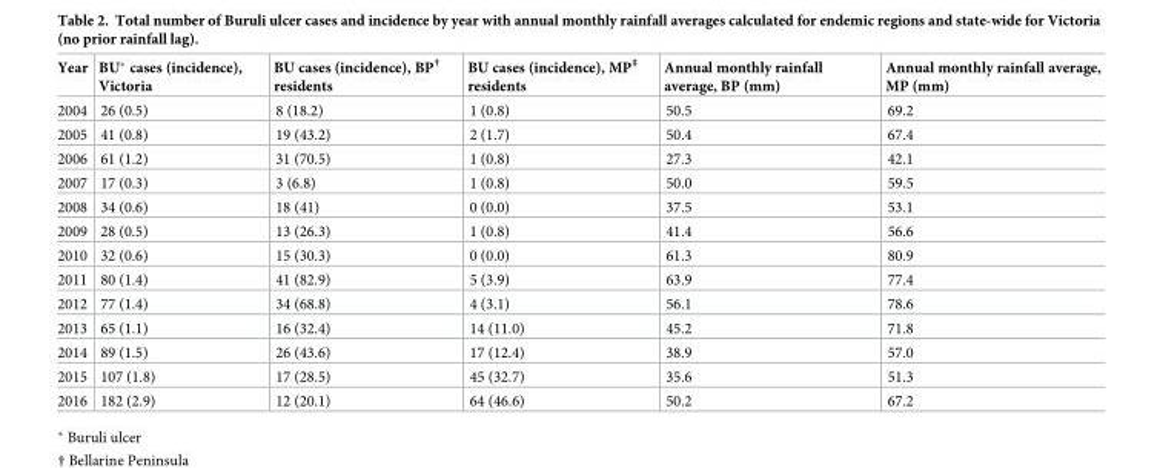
<table><thead><tr><td>Year</td><td>BU* cases (incidence), Victoria</td><td>BU cases (incidence), BP<sup>†</sup> residents</td><td>BU cases (incidence), MP<sup>‡</sup> residents</td><td>Annual monthly rainfall average, BP (mm)</td><td>Annual monthly rainfall average, MP (mm)</td></tr></thead><tbody><tr><td>2004</td><td>26 (0.5)</td><td>8 (18.2)</td><td>1 (0.8)</td><td>50.5</td><td>69.2</td></tr><tr><td>2005</td><td>41 (0.8)</td><td>19 (43.2)</td><td>2 (1.7)</td><td>50.4</td><td>67.4</td></tr><tr><td>2006</td><td>61 (1.2)</td><td>31 (70.5)</td><td>1 (0.8)</td><td>27.3</td><td>42.1</td></tr><tr><td>2007</td><td>17 (0.3)</td><td>3 (6.8)</td><td>1 (0.8)</td><td>50.0</td><td>59.5</td></tr><tr><td>2008</td><td>34 (0.6)</td><td>18 (41)</td><td>0 (0.0)</td><td>37.5</td><td>53.1</td></tr><tr><td>2009</td><td>28 (0.5)</td><td>13 (26.3)</td><td>1 (0.8)</td><td>41.4</td><td>56.6</td></tr><tr><td>2010</td><td>32 (0.6)</td><td>15 (30.3)</td><td>0 (0.0)</td><td>61.3</td><td>80.9</td></tr><tr><td>2011</td><td>80 (1.4)</td><td>41 (82.9)</td><td>5 (3.9)</td><td>63.9</td><td>77.4</td></tr><tr><td>2012</td><td>77 (1.4)</td><td>34 (68.8)</td><td>4 (3.1)</td><td>56.1</td><td>78.6</td></tr><tr><td>2013</td><td>65 (1.1)</td><td>16 (32.4)</td><td>14 (11.0)</td><td>45.2</td><td>71.8</td></tr><tr><td>2014</td><td>89 (1.5)</td><td>26 (43.6)</td><td>17 (12.4)</td><td>38.9</td><td>57.0</td></tr><tr><td>2015</td><td>107 (1.8)</td><td>17 (28.5)</td><td>45 (32.7)</td><td>35.6</td><td>51.3</td></tr><tr><td>2016</td><td>182 (2.9)</td><td>12 (20.1)</td><td>64 (46.6)</td><td>50.2</td><td>67.2</td></tr></tbody></table>